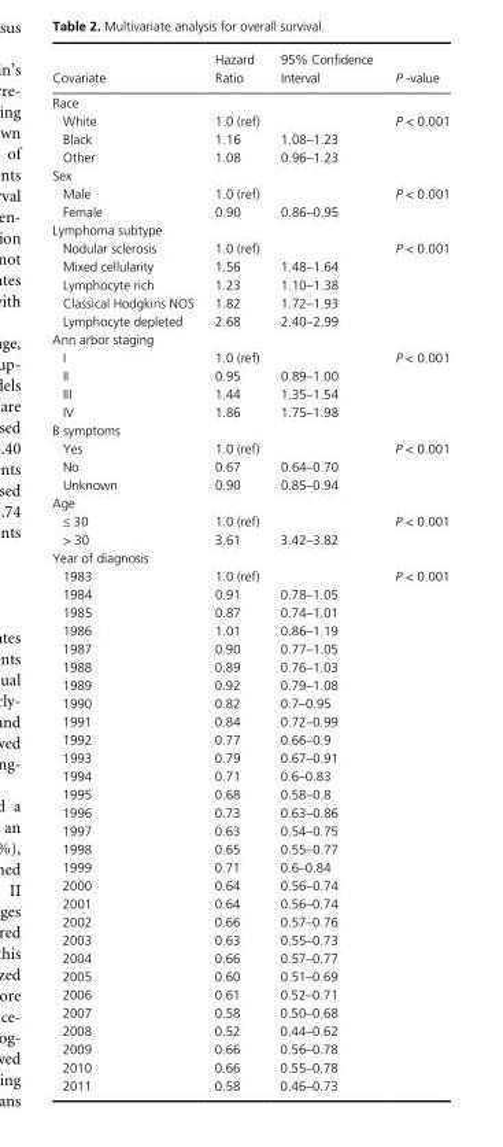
<table><thead><tr><td>Covariate</td><td>Hazard Ratio</td><td>95% Confidence Interval</td><td>P - value</td></tr></thead><tbody><tr><td colspan="4">Race</td></tr><tr><td>White</td><td>1.0 (ref)</td><td></td><td>P &lt; 0.001</td></tr><tr><td>Black</td><td>1.16</td><td>1.08–1.23</td><td></td></tr><tr><td>Other</td><td>1.08</td><td>0.96–1.23</td><td></td></tr><tr><td colspan="4">Sex</td></tr><tr><td>Male</td><td>1.0 (ref)</td><td></td><td>P &lt; 0.001</td></tr><tr><td>Female</td><td>0.90</td><td>0.86–0.95</td><td></td></tr><tr><td colspan="4">Lymphoma subtype</td></tr><tr><td>Nodular sclerosis</td><td>1.0 (ref)</td><td></td><td>P &lt; 0.001</td></tr><tr><td>Mixed cellularity</td><td>1.56</td><td>1.48–1.64</td><td></td></tr><tr><td>Lymphocyte rich</td><td>1.23</td><td>1.10–1.38</td><td></td></tr><tr><td>Classical Hodgkins NOS</td><td>1.82</td><td>1.72–1.93</td><td></td></tr><tr><td>Lymphocyte depleted</td><td>2.68</td><td>2.40–2.99</td><td></td></tr><tr><td colspan="4">Ann arbor staging</td></tr><tr><td>I</td><td>1.0 (ref)</td><td></td><td>P &lt; 0.001</td></tr><tr><td>II</td><td>0.95</td><td>0.89–1.00</td><td></td></tr><tr><td>III</td><td>1.44</td><td>1.35–1.54</td><td></td></tr><tr><td>IV</td><td>1.86</td><td>1.75–1.98</td><td></td></tr><tr><td colspan="4">B symptoms</td></tr><tr><td>Yes</td><td>1.0 (ref)</td><td></td><td>P &lt; 0.001</td></tr><tr><td>No</td><td>0.67</td><td>0.64–0.70</td><td></td></tr><tr><td>Unknown</td><td>0.90</td><td>0.85–0.94</td><td></td></tr><tr><td colspan="4">Age</td></tr><tr><td>≤ 30</td><td>1.0 (ref)</td><td></td><td>P &lt; 0.001</td></tr><tr><td>&gt; 30</td><td>3.61</td><td>3.42–3.82</td><td></td></tr><tr><td colspan="4">Year of diagnosis</td></tr><tr><td>1983</td><td>1.0 (ref)</td><td></td><td>P &lt; 0.001</td></tr><tr><td>1984</td><td>0.91</td><td>0.78–1.05</td><td></td></tr><tr><td>1985</td><td>0.87</td><td>0.74–1.01</td><td></td></tr><tr><td>1986</td><td>1.01</td><td>0.86–1.19</td><td></td></tr><tr><td>1987</td><td>0.90</td><td>0.77–1.05</td><td></td></tr><tr><td>1988</td><td>0.89</td><td>0.76–1.03</td><td></td></tr><tr><td>1989</td><td>0.92</td><td>0.79–1.08</td><td></td></tr><tr><td>1990</td><td>0.82</td><td>0.7–0.95</td><td></td></tr><tr><td>1991</td><td>0.84</td><td>0.72–0.99</td><td></td></tr><tr><td>1992</td><td>0.77</td><td>0.66–0.9</td><td></td></tr><tr><td>1993</td><td>0.79</td><td>0.67–0.91</td><td></td></tr><tr><td>1994</td><td>0.71</td><td>0.6–0.83</td><td></td></tr><tr><td>1995</td><td>0.68</td><td>0.58–0.8</td><td></td></tr><tr><td>1996</td><td>0.73</td><td>0.63–0.86</td><td></td></tr><tr><td>1997</td><td>0.63</td><td>0.54–0.75</td><td></td></tr><tr><td>1998</td><td>0.65</td><td>0.55–0.77</td><td></td></tr><tr><td>1999</td><td>0.71</td><td>0.6–0.84</td><td></td></tr><tr><td>2000</td><td>0.64</td><td>0.56–0.74</td><td></td></tr><tr><td>2001</td><td>0.64</td><td>0.56–0.74</td><td></td></tr><tr><td>2002</td><td>0.66</td><td>0.57–0.76</td><td></td></tr><tr><td>2003</td><td>0.63</td><td>0.55–0.73</td><td></td></tr><tr><td>2004</td><td>0.66</td><td>0.57–0.77</td><td></td></tr><tr><td>2005</td><td>0.60</td><td>0.51–0.69</td><td></td></tr><tr><td>2006</td><td>0.61</td><td>0.52–0.71</td><td></td></tr><tr><td>2007</td><td>0.58</td><td>0.50–0.68</td><td></td></tr><tr><td>2008</td><td>0.52</td><td>0.44–0.62</td><td></td></tr><tr><td>2009</td><td>0.66</td><td>0.56–0.78</td><td></td></tr><tr><td>2010</td><td>0.66</td><td>0.55–0.78</td><td></td></tr><tr><td>2011</td><td>0.58</td><td>0.46–0.73</td><td></td></tr></tbody></table>